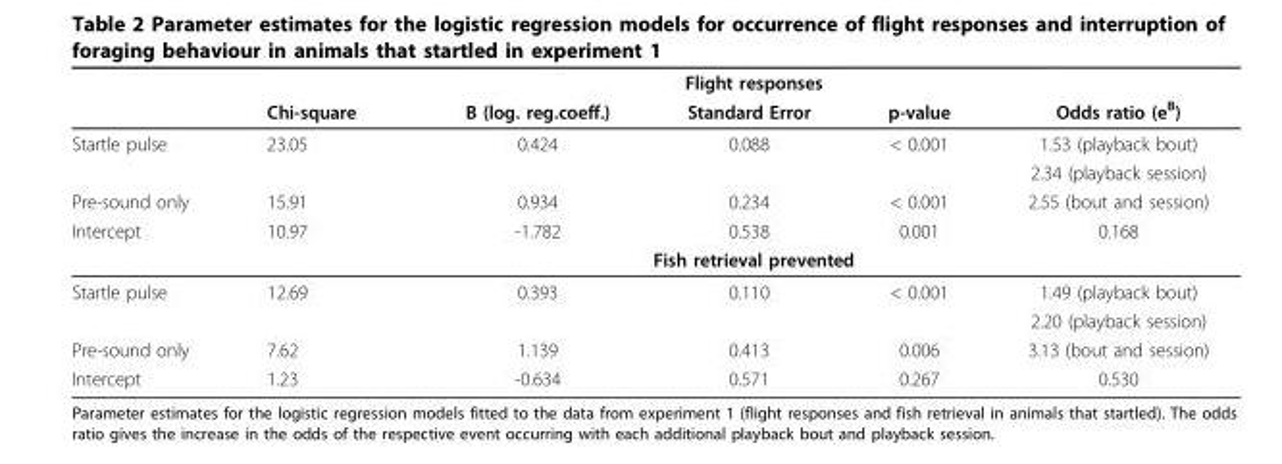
<table><thead><tr><td rowspan="2"></td><td colspan="5">Flight responses</td></tr><tr><td>Chi-square</td><td>B (log. reg.coeff.)</td><td>Standard Error</td><td>p-value</td><td>Odds ratio (e<sup>B</sup>)</td></tr></thead><tbody><tr><td rowspan="2">Startle pulse</td><td>23.05</td><td>0.424</td><td>0.088</td><td>&lt; 0.001</td><td>1.53 (playback bout)</td></tr><tr><td></td><td></td><td></td><td></td><td>2.34 (playback session)</td></tr><tr><td>Pre-sound only</td><td>15.91</td><td>0.934</td><td>0.234</td><td>&lt; 0.001</td><td>2.55 (bout and session)</td></tr><tr><td rowspan="2">Intercept</td><td>10.97</td><td>-1.782</td><td>0.538</td><td>0.001</td><td>0.168</td></tr><tr><td colspan="5">Fish retrieval prevented</td></tr><tr><td rowspan="2">Startle pulse</td><td>12.69</td><td>0.393</td><td>0.110</td><td>&lt; 0.001</td><td>1.49 (playback bout)</td></tr><tr><td></td><td></td><td></td><td></td><td>2.20 (playback session)</td></tr><tr><td>Pre-sound only</td><td>7.62</td><td>1.139</td><td>0.413</td><td>0.006</td><td>3.13 (bout and session)</td></tr><tr><td>Intercept</td><td>1.23</td><td>-0.634</td><td>0.571</td><td>0.267</td><td>0.530</td></tr></tbody></table>